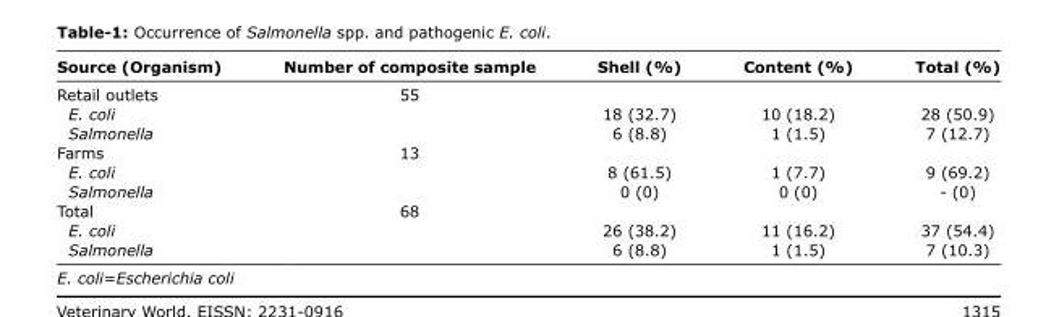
<table><thead><tr><td>Source (Organism)</td><td>Number of composite sample</td><td>Shell (%)</td><td>Content (%)</td><td>Total (%)</td></tr></thead><tbody><tr><td>Retail outlets</td><td>55</td><td></td><td></td><td></td></tr><tr><td>E. coli</td><td></td><td>18 (32.7)</td><td>10 (18.2)</td><td>28 (50.9)</td></tr><tr><td>Salmonella</td><td></td><td>6 (8.8)</td><td>1 (1.5)</td><td>7 (12.7)</td></tr><tr><td>Farms</td><td>13</td><td></td><td></td><td></td></tr><tr><td>E. coli</td><td></td><td>8 (61.5)</td><td>1 (7.7)</td><td>9 (69.2)</td></tr><tr><td>Salmonella</td><td></td><td>0 (0)</td><td>0 (0)</td><td>- (0)</td></tr><tr><td>Total</td><td>68</td><td></td><td></td><td></td></tr><tr><td>E. coli</td><td></td><td>26 (38.2)</td><td>11 (16.2)</td><td>37 (54.4)</td></tr><tr><td>Salmonella</td><td></td><td>6 (8.8)</td><td>1 (1.5)</td><td>7 (10.3)</td></tr></tbody></table>